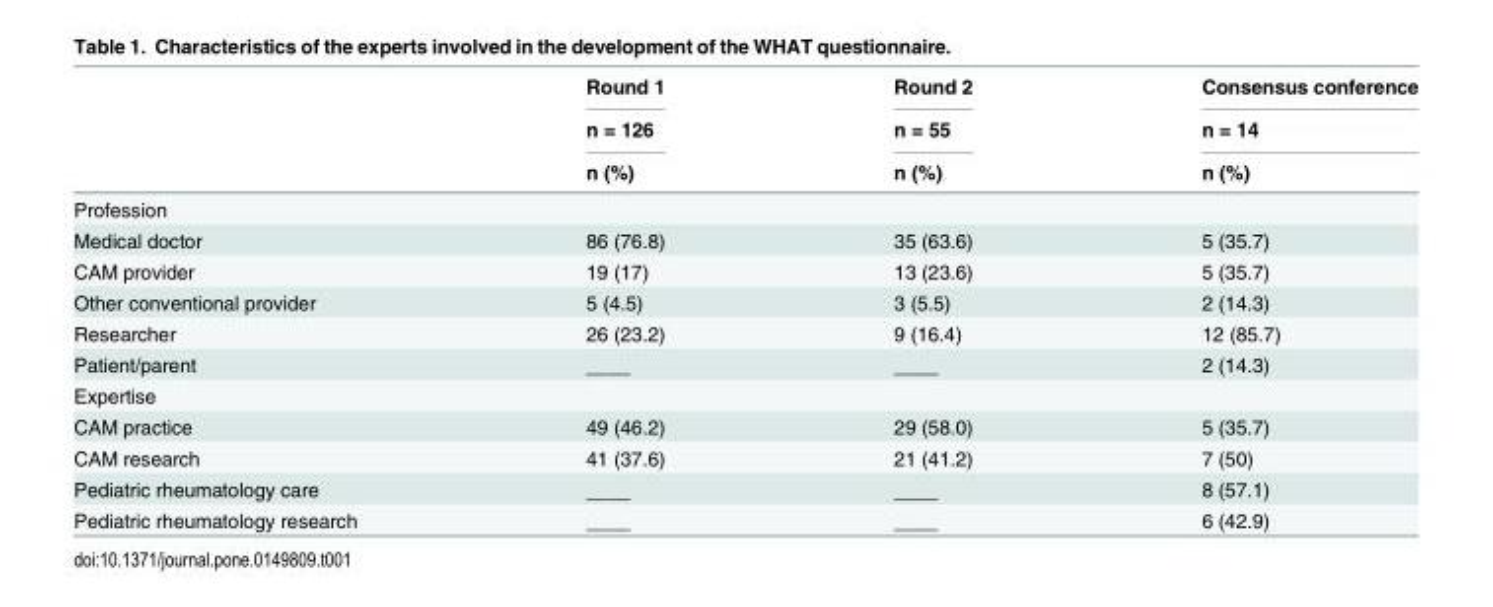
<table><thead><tr><td rowspan="3"></td><td rowspan="3">Round 1 n = 126 n (%)</td><td rowspan="3">Round 2 n = 55 n (%)</td><td rowspan="3">Consensus conference n = 14 n (%)</td></tr><tr></tr><tr></tr></thead><tbody><tr><td colspan="4">Profession</td></tr><tr><td>Medical doctor</td><td>86 (76.8)</td><td>35 (63.6)</td><td>5 (35.7)</td></tr><tr><td>CAM provider</td><td>19 (17)</td><td>13 (23.6)</td><td>5 (35.7)</td></tr><tr><td>Other conventional provider</td><td>5 (4.5)</td><td>3 (5.5)</td><td>2 (14.3)</td></tr><tr><td>Researcher</td><td>26 (23.2)</td><td>9 (16.4)</td><td>12 (85.7)</td></tr><tr><td>Patient/parent</td><td>____</td><td>____</td><td>2 (14.3)</td></tr><tr><td colspan="4">Expertise</td></tr><tr><td>CAM practice</td><td>49 (46.2)</td><td>29 (58.0)</td><td>5 (35.7)</td></tr><tr><td>CAM research</td><td>41 (37.6)</td><td>21 (41.2)</td><td>7 (50)</td></tr><tr><td>Pediatric rheumatology care</td><td>____</td><td>____</td><td>8 (57.1)</td></tr><tr><td>Pediatric rheumatology research</td><td>____</td><td>____</td><td>6 (42.9)</td></tr></tbody></table>